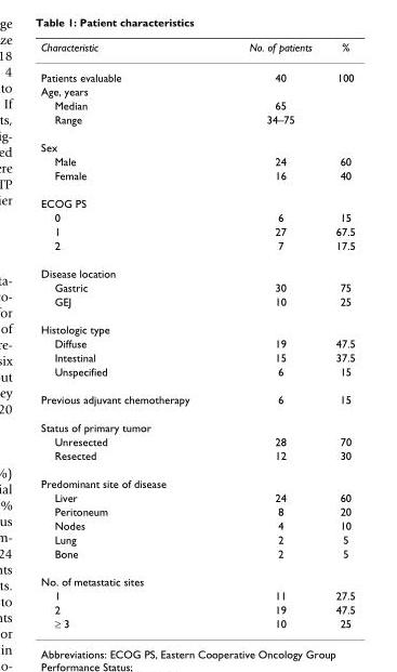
<table><thead><tr><td>Characteristic</td><td>No. of patients</td><td>%</td></tr></thead><tbody><tr><td>Patients evaluable</td><td>40</td><td>100</td></tr><tr><td colspan="3">Age, years</td></tr><tr><td>Median</td><td>65</td><td></td></tr><tr><td>Range</td><td>34–75</td><td></td></tr><tr><td colspan="3">Sex</td></tr><tr><td>Male</td><td>24</td><td>60</td></tr><tr><td>Female</td><td>16</td><td>40</td></tr><tr><td colspan="3">ECOG PS</td></tr><tr><td>0</td><td>6</td><td>15</td></tr><tr><td>1</td><td>27</td><td>67.5</td></tr><tr><td>2</td><td>7</td><td>17.5</td></tr><tr><td colspan="3">Disease location</td></tr><tr><td>Gastric</td><td>30</td><td>75</td></tr><tr><td>GEJ</td><td>10</td><td>25</td></tr><tr><td colspan="3">Histologic type</td></tr><tr><td>Diffuse</td><td>19</td><td>47.5</td></tr><tr><td>Intestinal</td><td>15</td><td>37.5</td></tr><tr><td>Unspecified</td><td>6</td><td>15</td></tr><tr><td>Previous adjuvant chemotherapy</td><td>6</td><td>15</td></tr><tr><td colspan="3">Status of primary tumor</td></tr><tr><td>Unresected</td><td>28</td><td>70</td></tr><tr><td>Resected</td><td>12</td><td>30</td></tr><tr><td colspan="3">Predominant site of disease</td></tr><tr><td>Liver</td><td>24</td><td>60</td></tr><tr><td>Peritoneum</td><td>8</td><td>20</td></tr><tr><td>Nodes</td><td>4</td><td>10</td></tr><tr><td>Lung</td><td>2</td><td>5</td></tr><tr><td>Bone</td><td>2</td><td>5</td></tr><tr><td colspan="3">No. of metastatic sites</td></tr><tr><td>1</td><td>11</td><td>27.5</td></tr><tr><td>2</td><td>19</td><td>47.5</td></tr><tr><td>≥ 3</td><td>10</td><td>25</td></tr></tbody></table>